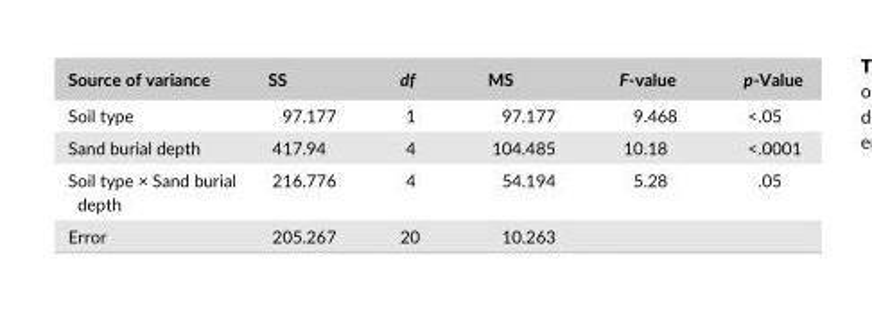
<table><thead><tr><td>Source of variance</td><td>SS</td><td>df</td><td>MS</td><td>F- value</td><td>p- Value</td></tr></thead><tbody><tr><td>Soil type</td><td>97.177</td><td>1</td><td>97.177</td><td>9.468</td><td>&lt;.05</td></tr><tr><td>Sand burial depth</td><td>417.94</td><td>4</td><td>104.485</td><td>10.18</td><td>&lt;.0001</td></tr><tr><td>Soil type × Sand burial depth</td><td>216.776</td><td>4</td><td>54.194</td><td>5.28</td><td>.05</td></tr><tr><td>Error</td><td>205.267</td><td>20</td><td>10.263</td><td></td><td></td></tr></tbody></table>